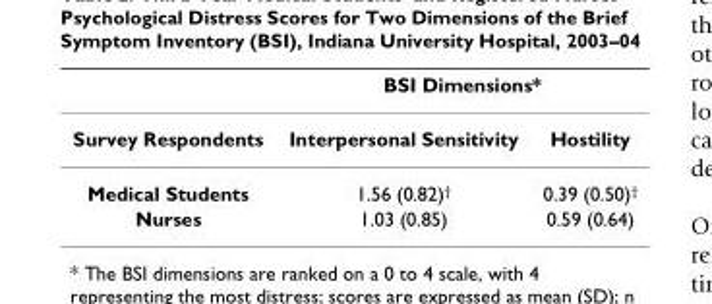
<table><thead><tr><td rowspan="2">Survey Respondents</td><td colspan="2">BSI Dimensions*</td></tr><tr><td>Interpersonal Sensitivity</td><td>Hostility</td></tr></thead><tbody><tr><td>Medical Students</td><td>1.56 (0.82)†</td><td>0.39 (0.50)†</td></tr><tr><td>Nurses</td><td>1.03 (0.85)</td><td>0.59 (0.64)</td></tr></tbody></table>